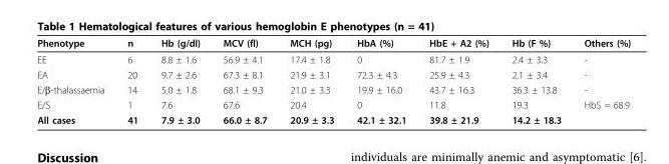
<table><thead><tr><td>Phenotype</td><td>n</td><td>Hb (g/dl)</td><td>MCV (fl)</td><td>MCH (pg)</td><td>HbA (%)</td><td>HbE + A2 (%)</td><td>Hb (F %)</td><td>Others (%)</td></tr></thead><tbody><tr><td>EE</td><td>6</td><td>8.8 ± 1.6</td><td>56.9 ± 4.1</td><td>17.4 ± 1.8</td><td>0</td><td>81.7 ± 1.9</td><td>2.4 ± 3.3</td><td>-</td></tr><tr><td>EA</td><td>20</td><td>9.7 ± 2.6</td><td>67.3 ± 8.1</td><td>21.9 ± 3.1</td><td>72.3 ± 4.3</td><td>25.9 ± 4.3</td><td>2.1 ± 3.4</td><td>-</td></tr><tr><td>E/β-thalassaemia</td><td>14</td><td>5.0 ± 1.8</td><td>68.1 ± 9.3</td><td>21.0 ± 3.3</td><td>19.9 ± 16.0</td><td>43.7 ± 16.3</td><td>36.3 ± 13.8</td><td>-</td></tr><tr><td>E/S</td><td>1</td><td>7.6</td><td>67.6</td><td>20.4</td><td>0</td><td>11.8</td><td>19.3</td><td>HbS = 68.9</td></tr><tr><td>All cases</td><td>41</td><td>7.9 ± 3.0</td><td>66.0 ± 8.7</td><td>20.9 ± 3.3</td><td>42.1 ± 32.1</td><td>39.8 ± 21.9</td><td>14.2 ± 18.3</td><td></td></tr></tbody></table>